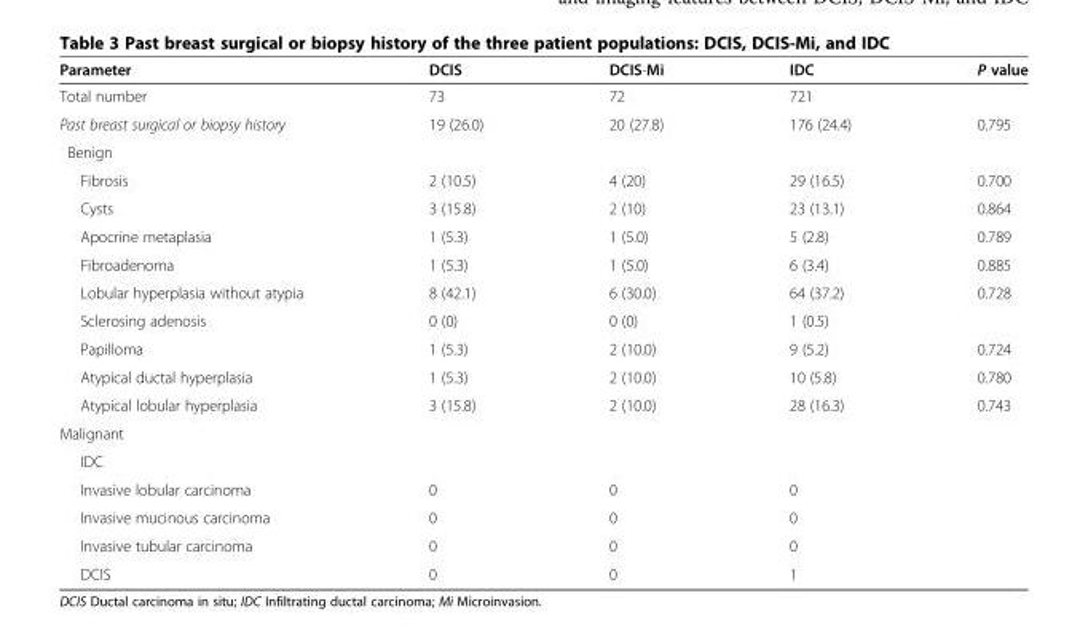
<table><thead><tr><td>Parameter</td><td>DCIS</td><td>DCIS-Mi</td><td>IDC</td><td>P value</td></tr></thead><tbody><tr><td>Total number</td><td>73</td><td>72</td><td>721</td><td></td></tr><tr><td>Past breast surgical or biopsy history</td><td>19 (26.0)</td><td>20 (27.8)</td><td>176 (24.4)</td><td>0.795</td></tr><tr><td colspan="5">Benign</td></tr><tr><td>Fibrosis</td><td>2 (10.5)</td><td>4 (20)</td><td>29 (16.5)</td><td>0.700</td></tr><tr><td>Cysts</td><td>3 (15.8)</td><td>2 (10)</td><td>23 (13.1)</td><td>0.864</td></tr><tr><td>Apocrine metaplasia</td><td>1 (5.3)</td><td>1 (5.0)</td><td>5 (2.8)</td><td>0.789</td></tr><tr><td>Fibroadenoma</td><td>1 (5.3)</td><td>1 (5.0)</td><td>6 (3.4)</td><td>0.885</td></tr><tr><td>Lobular hyperplasia without atypia</td><td>8 (42.1)</td><td>6 (30.0)</td><td>64 (37.2)</td><td>0.728</td></tr><tr><td>Sclerosing adenosis</td><td>0 (0)</td><td>0 (0)</td><td>1 (0.5)</td><td></td></tr><tr><td>Papilloma</td><td>1 (5.3)</td><td>2 (10.0)</td><td>9 (5.2)</td><td>0.724</td></tr><tr><td>Atypical ductal hyperplasia</td><td>1 (5.3)</td><td>2 (10.0)</td><td>10 (5.8)</td><td>0.780</td></tr><tr><td>Atypical lobular hyperplasia</td><td>3 (15.8)</td><td>2 (10.0)</td><td>28 (16.3)</td><td>0.743</td></tr><tr><td colspan="5">Malignant</td></tr><tr><td colspan="5">IDC</td></tr><tr><td>Invasive lobular carcinoma</td><td>0</td><td>0</td><td>0</td><td></td></tr><tr><td>Invasive mucinous carcinoma</td><td>0</td><td>0</td><td>0</td><td></td></tr><tr><td>Invasive tubular carcinoma</td><td>0</td><td>0</td><td>0</td><td></td></tr><tr><td>DCIS</td><td>0</td><td>0</td><td>1</td><td></td></tr></tbody></table>